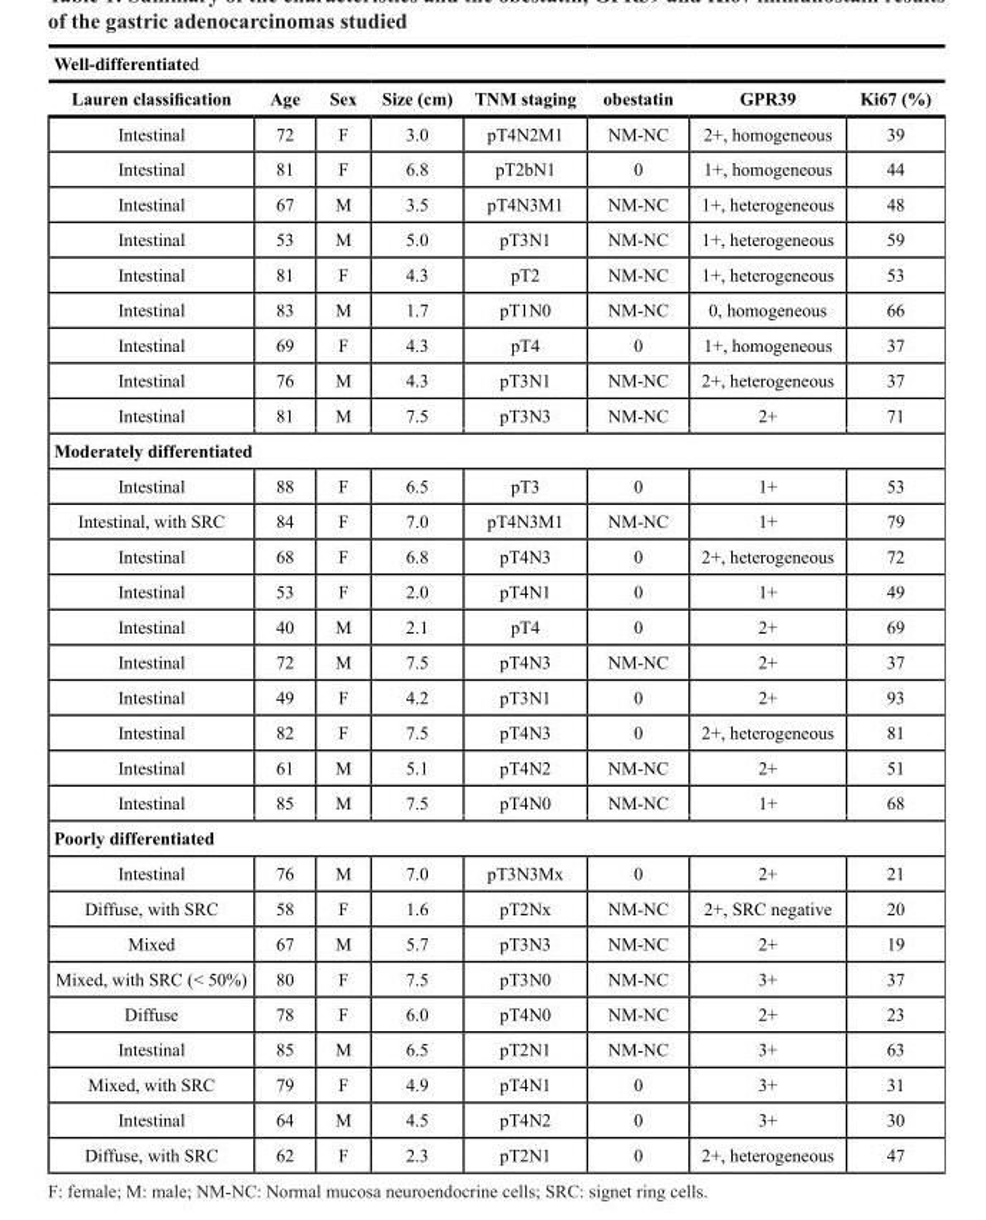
<table><thead><tr><td colspan="8">Well-differentiated</td></tr><tr><td>Lauren classification</td><td>Age</td><td>Sex</td><td>Size (cm)</td><td>TNM staging</td><td>obestatin</td><td>GPR39</td><td>Ki67 (%)</td></tr></thead><tbody><tr><td>Intestinal</td><td>72</td><td>F</td><td>3.0</td><td>pT4N2M1</td><td>NM-NC</td><td>2+, homogeneous</td><td>39</td></tr><tr><td>Intestinal</td><td>81</td><td>F</td><td>6.8</td><td>pT2bN1</td><td>0</td><td>1+, homogeneous</td><td>44</td></tr><tr><td>Intestinal</td><td>67</td><td>M</td><td>3.5</td><td>pT4N3M1</td><td>NM-NC</td><td>1+, heterogeneous</td><td>48</td></tr><tr><td>Intestinal</td><td>53</td><td>M</td><td>5.0</td><td>pT3N1</td><td>NM-NC</td><td>1+, heterogeneous</td><td>59</td></tr><tr><td>Intestinal</td><td>81</td><td>F</td><td>4.3</td><td>pT2</td><td>NM-NC</td><td>1+, heterogeneous</td><td>53</td></tr><tr><td>Intestinal</td><td>83</td><td>M</td><td>1.7</td><td>pT1N0</td><td>NM-NC</td><td>0, homogeneous</td><td>66</td></tr><tr><td>Intestinal</td><td>69</td><td>F</td><td>4.3</td><td>pT4</td><td>0</td><td>1+, homogeneous</td><td>37</td></tr><tr><td>Intestinal</td><td>76</td><td>M</td><td>4.3</td><td>pT3N1</td><td>NM-NC</td><td>2+, heterogeneous</td><td>37</td></tr><tr><td>Intestinal</td><td>81</td><td>M</td><td>7.5</td><td>pT3N3</td><td>NM-NC</td><td>2+</td><td>71</td></tr><tr><td colspan="8">Moderately differentiated</td></tr><tr><td>Intestinal</td><td>88</td><td>F</td><td>6.5</td><td>pT3</td><td>0</td><td>1+</td><td>53</td></tr><tr><td>Intestinal, with SRC</td><td>84</td><td>F</td><td>7.0</td><td>pT4N3M1</td><td>NM-NC</td><td>1+</td><td>79</td></tr><tr><td>Intestinal</td><td>68</td><td>F</td><td>6.8</td><td>pT4N3</td><td>0</td><td>2+, heterogeneous</td><td>72</td></tr><tr><td>Intestinal</td><td>53</td><td>F</td><td>2.0</td><td>pT4N1</td><td>0</td><td>1+</td><td>49</td></tr><tr><td>Intestinal</td><td>40</td><td>M</td><td>2.1</td><td>pT4</td><td>0</td><td>2+</td><td>69</td></tr><tr><td>Intestinal</td><td>72</td><td>M</td><td>7.5</td><td>pT4N3</td><td>NM-NC</td><td>2+</td><td>37</td></tr><tr><td>Intestinal</td><td>49</td><td>F</td><td>4.2</td><td>pT3N1</td><td>0</td><td>2+</td><td>93</td></tr><tr><td>Intestinal</td><td>82</td><td>F</td><td>7.5</td><td>pT4N3</td><td>0</td><td>2+, heterogeneous</td><td>81</td></tr><tr><td>Intestinal</td><td>61</td><td>M</td><td>5.1</td><td>pT4N2</td><td>NM-NC</td><td>2+</td><td>51</td></tr><tr><td>Intestinal</td><td>85</td><td>M</td><td>7.5</td><td>pT4N0</td><td>NM-NC</td><td>1+</td><td>68</td></tr><tr><td colspan="8">Poorly differentiated</td></tr><tr><td>Intestinal</td><td>76</td><td>M</td><td>7.0</td><td>pT3N3Mx</td><td>0</td><td>2+</td><td>21</td></tr><tr><td>Diffuse, with SRC</td><td>58</td><td>F</td><td>1.6</td><td>pT2Nx</td><td>NM-NC</td><td>2+, SRC negative</td><td>20</td></tr><tr><td>Mixed</td><td>67</td><td>M</td><td>5.7</td><td>pT3N3</td><td>NM-NC</td><td>2+</td><td>19</td></tr><tr><td>Mixed, with SRC (&lt; 50%)</td><td>80</td><td>F</td><td>7.5</td><td>pT3N0</td><td>NM-NC</td><td>3+</td><td>37</td></tr><tr><td>Diffuse</td><td>78</td><td>F</td><td>6.0</td><td>pT4N0</td><td>NM-NC</td><td>2+</td><td>23</td></tr><tr><td>Intestinal</td><td>85</td><td>M</td><td>6.5</td><td>pT2N1</td><td>NM-NC</td><td>3+</td><td>63</td></tr><tr><td>Mixed, with SRC</td><td>79</td><td>F</td><td>4.9</td><td>pT4N1</td><td>0</td><td>3+</td><td>31</td></tr><tr><td>Intestinal</td><td>64</td><td>M</td><td>4.5</td><td>pT4N2</td><td>0</td><td>3+</td><td>30</td></tr><tr><td>Diffuse, with SRC</td><td>62</td><td>F</td><td>2.3</td><td>pT2N1</td><td>0</td><td>2+, heterogeneous</td><td>47</td></tr></tbody></table>